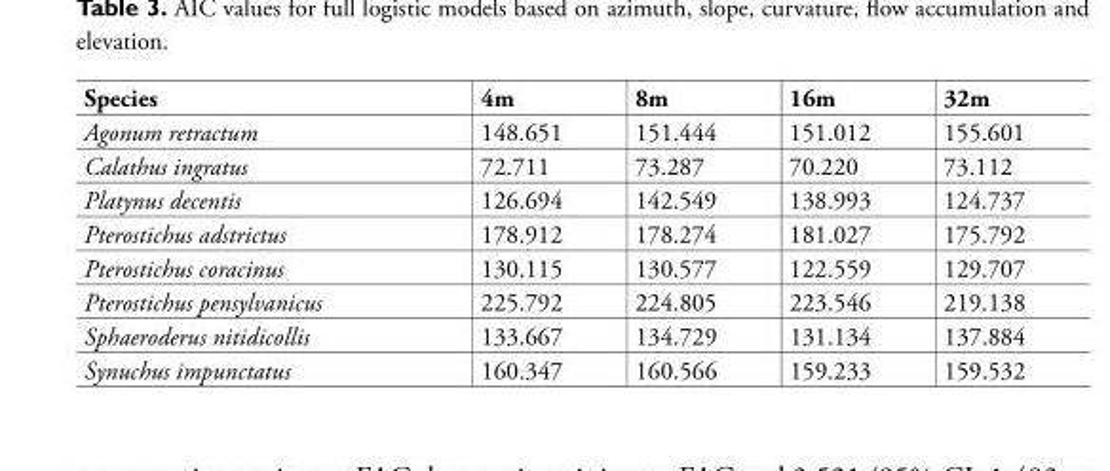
<table><thead><tr><td>Species</td><td>4m</td><td>8m</td><td>16m</td><td>32m</td></tr></thead><tbody><tr><td>Agonum retractum</td><td>148.651</td><td>151.444</td><td>151.012</td><td>155.601</td></tr><tr><td>Calathus ingratus</td><td>72.711</td><td>73.287</td><td>70.220</td><td>73.112</td></tr><tr><td>Platynus decentis</td><td>126.694</td><td>142.549</td><td>138.993</td><td>124.737</td></tr><tr><td>Pterostichus adstrictus</td><td>178.912</td><td>178.274</td><td>181.027</td><td>175.792</td></tr><tr><td>Pterostichus coracinus</td><td>130.115</td><td>130.577</td><td>122.559</td><td>129.707</td></tr><tr><td>Pterostichus pensylvanicus</td><td>225.792</td><td>224.805</td><td>223.546</td><td>219.138</td></tr><tr><td>Sphaeroderus nitidicollis</td><td>133.667</td><td>134.729</td><td>131.134</td><td>137.884</td></tr><tr><td>Synuchus impunctatus</td><td>160.347</td><td>160.566</td><td>159.233</td><td>159.532</td></tr></tbody></table>